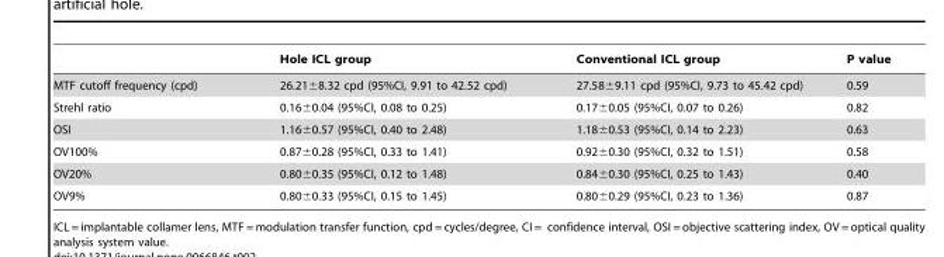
<table><thead><tr><td></td><td>Hole ICL group</td><td>Conventional ICL group</td><td>P value</td></tr></thead><tbody><tr><td>MTF cutoff frequency (cpd)</td><td>26.21±8.32 cpd (95%CI, 9.91 to 42.52 cpd)</td><td>27.58±9.11 cpd (95%CI, 9.73 to 45.42 cpd)</td><td>0.59</td></tr><tr><td>Strehl ratio</td><td>0.16±0.04 (95%CI, 0.08 to 0.25)</td><td>0.17±0.05 (95%CI, 0.07 to 0.26)</td><td>0.82</td></tr><tr><td>OSI</td><td>1.16±0.57 (95%CI, 0.40 to 2.48)</td><td>1.18±0.53 (95%CI, 0.14 to 2.23)</td><td>0.63</td></tr><tr><td>OV100%</td><td>0.87±0.28 (95%CI, 0.33 to 1.41)</td><td>0.92±0.30 (95%CI, 0.32 to 1.51)</td><td>0.58</td></tr><tr><td>OV20%</td><td>0.80±0.35 (95%CI, 0.12 to 1.48)</td><td>0.84±0.30 (95%CI, 0.25 to 1.43)</td><td>0.40</td></tr><tr><td>OV9%</td><td>0.80±0.33 (95%CI, 0.15 to 1.45)</td><td>0.80±0.29 (95%CI, 0.23 to 1.36)</td><td>0.87</td></tr></tbody></table>